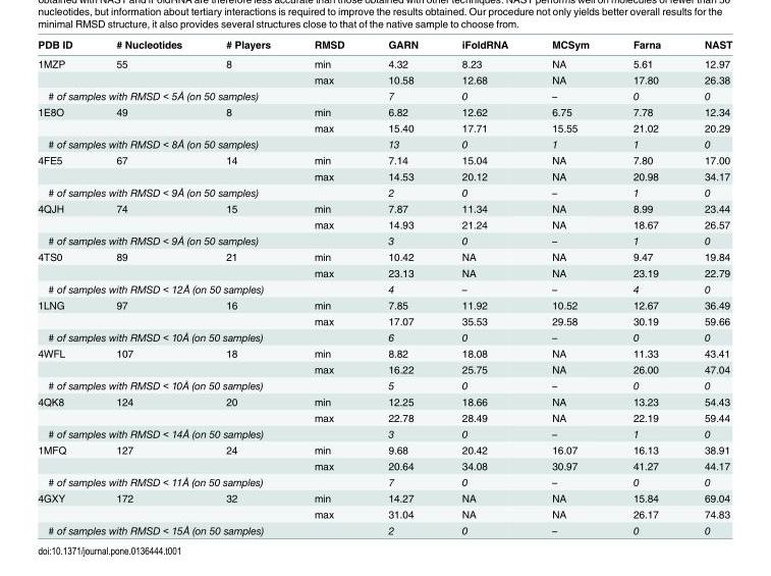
<table><thead><tr><td>PDB ID</td><td># Nucleotides</td><td># Players</td><td>RMSD</td><td>GARN</td><td>iFoldRNA</td><td>MCSym</td><td>Farna</td><td>NAST</td></tr></thead><tbody><tr><td rowspan="2">1MZP</td><td>55</td><td>8</td><td>min</td><td>4.32</td><td>8.23</td><td>NA</td><td>5.61</td><td>12.97</td></tr><tr><td></td><td></td><td>max</td><td>10.58</td><td>12.68</td><td>NA</td><td>17.80</td><td>26.38</td></tr><tr><td colspan="4"># of samples with RMSD &lt; 5Å (on 50 samples)</td><td>7</td><td>0</td><td>–</td><td>0</td><td>0</td></tr><tr><td rowspan="2">1E8O</td><td>49</td><td>8</td><td>min</td><td>6.82</td><td>12.62</td><td>6.75</td><td>7.78</td><td>12.34</td></tr><tr><td></td><td></td><td>max</td><td>15.40</td><td>17.71</td><td>15.55</td><td>21.02</td><td>20.29</td></tr><tr><td colspan="4"># of samples with RMSD &lt; 8Å (on 50 samples)</td><td>13</td><td>0</td><td>1</td><td>1</td><td>0</td></tr><tr><td rowspan="2">4FE5</td><td>67</td><td>14</td><td>min</td><td>7.14</td><td>15.04</td><td>NA</td><td>7.80</td><td>17.00</td></tr><tr><td></td><td></td><td>max</td><td>14.53</td><td>20.12</td><td>NA</td><td>20.98</td><td>34.17</td></tr><tr><td colspan="4"># of samples with RMSD &lt; 9Å (on 50 samples)</td><td>2</td><td>0</td><td>–</td><td>1</td><td>0</td></tr><tr><td rowspan="2">4QJH</td><td>74</td><td>15</td><td>min</td><td>7.87</td><td>11.34</td><td>NA</td><td>8.99</td><td>23.44</td></tr><tr><td></td><td></td><td>max</td><td>14.93</td><td>21.24</td><td>NA</td><td>18.67</td><td>26.57</td></tr><tr><td colspan="4"># of samples with RMSD &lt; 9Å (on 50 samples)</td><td>3</td><td>0</td><td>–</td><td>1</td><td>0</td></tr><tr><td rowspan="2">4TS0</td><td>89</td><td>21</td><td>min</td><td>10.42</td><td>NA</td><td>NA</td><td>9.47</td><td>19.84</td></tr><tr><td></td><td></td><td>max</td><td>23.13</td><td>NA</td><td>NA</td><td>23.19</td><td>22.79</td></tr><tr><td colspan="4"># of samples with RMSD &lt; 12Å (on 50 samples)</td><td>4</td><td>–</td><td>–</td><td>4</td><td>0</td></tr><tr><td rowspan="2">1LNG</td><td>97</td><td>16</td><td>min</td><td>7.85</td><td>11.92</td><td>10.52</td><td>12.67</td><td>36.49</td></tr><tr><td></td><td></td><td>max</td><td>17.07</td><td>35.53</td><td>29.58</td><td>30.19</td><td>59.66</td></tr><tr><td colspan="4"># of samples with RMSD &lt; 10Å (on 50 samples)</td><td>6</td><td>0</td><td>–</td><td>0</td><td>0</td></tr><tr><td rowspan="2">4WFL</td><td>107</td><td>18</td><td>min</td><td>8.82</td><td>18.08</td><td>NA</td><td>11.33</td><td>43.41</td></tr><tr><td></td><td></td><td>max</td><td>16.22</td><td>25.75</td><td>NA</td><td>26.00</td><td>47.04</td></tr><tr><td colspan="4"># of samples with RMSD &lt; 10Å (on 50 samples)</td><td>5</td><td>0</td><td>–</td><td>0</td><td>0</td></tr><tr><td rowspan="2">4QK8</td><td>124</td><td>20</td><td>min</td><td>12.25</td><td>18.66</td><td>NA</td><td>13.23</td><td>54.43</td></tr><tr><td></td><td></td><td>max</td><td>22.78</td><td>28.49</td><td>NA</td><td>22.19</td><td>59.44</td></tr><tr><td colspan="4"># of samples with RMSD &lt; 14Å (on 50 samples)</td><td>3</td><td>0</td><td>–</td><td>1</td><td>0</td></tr><tr><td rowspan="2">1MFQ</td><td>127</td><td>24</td><td>min</td><td>9.68</td><td>20.42</td><td>16.07</td><td>16.13</td><td>38.91</td></tr><tr><td></td><td></td><td>max</td><td>20.64</td><td>34.08</td><td>30.97</td><td>41.27</td><td>44.17</td></tr><tr><td colspan="4"># of samples with RMSD &lt; 11Å (on 50 samples)</td><td>7</td><td>0</td><td>–</td><td>0</td><td>0</td></tr><tr><td rowspan="2">4GXY</td><td>172</td><td>32</td><td>min</td><td>14.27</td><td>NA</td><td>NA</td><td>15.84</td><td>69.04</td></tr><tr><td></td><td></td><td>max</td><td>31.04</td><td>NA</td><td>NA</td><td>26.17</td><td>74.83</td></tr><tr><td colspan="4"># of samples with RMSD &lt; 15Å (on 50 samples)</td><td>2</td><td>0</td><td>–</td><td>0</td><td>0</td></tr></tbody></table>